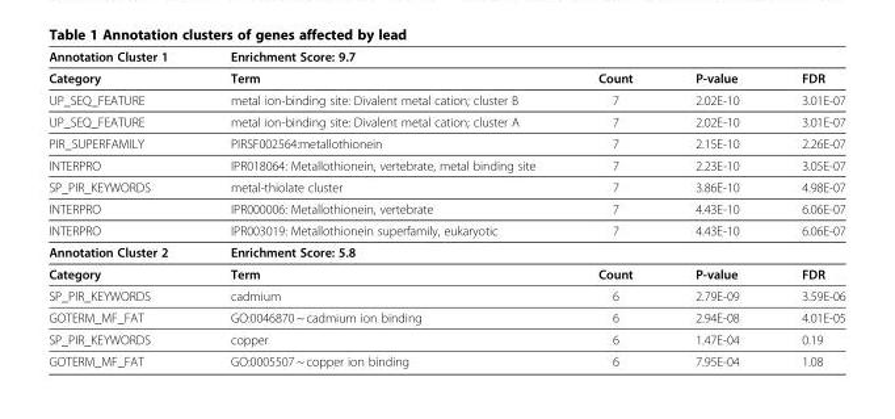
<table><thead><tr><td>Annotation Cluster 1</td><td>Enrichment Score: 9.7</td><td></td><td></td><td></td></tr></thead><tbody><tr><td>Category</td><td>Term</td><td>Count</td><td>P-value</td><td>FDR</td></tr><tr><td>UP_SEQ_FEATURE</td><td>metal ion-binding site: Divalent metal cation; cluster B</td><td>7</td><td>2.02E-10</td><td>3.01E-07</td></tr><tr><td>UP_SEQ_FEATURE</td><td>metal ion-binding site: Divalent metal cation; cluster A</td><td>7</td><td>2.02E-10</td><td>3.01E-07</td></tr><tr><td>PIR_SUPERFAMILY</td><td>PIRSF002564:metallothionein</td><td>7</td><td>2.15E-10</td><td>2.26E-07</td></tr><tr><td>INTERPRO</td><td>IPR018064: Metallothionein, vertebrate, metal binding site</td><td>7</td><td>2.23E-10</td><td>3.05E-07</td></tr><tr><td>SP_PIR_KEYWORDS</td><td>metal-thiolate cluster</td><td>7</td><td>3.86E-10</td><td>4.98E-07</td></tr><tr><td>INTERPRO</td><td>IPR000006: Metallothionein, vertebrate</td><td>7</td><td>4.43E-10</td><td>6.06E-07</td></tr><tr><td>INTERPRO</td><td>IPR003019: Metallothionein superfamily, eukaryotic</td><td>7</td><td>4.43E-10</td><td>6.06E-07</td></tr><tr><td>Annotation Cluster 2</td><td>Enrichment Score: 5.8</td><td></td><td></td><td></td></tr><tr><td>Category</td><td>Term</td><td>Count</td><td>P-value</td><td>FDR</td></tr><tr><td>SP_PIR_KEYWORDS</td><td>cadmium</td><td>6</td><td>2.79E-09</td><td>3.59E-06</td></tr><tr><td>GOTERM_MF_FAT</td><td>GO:0046870 ~ cadmium ion binding</td><td>6</td><td>2.94E-08</td><td>4.01E-05</td></tr><tr><td>SP_PIR_KEYWORDS</td><td>copper</td><td>6</td><td>1.47E-04</td><td>0.19</td></tr><tr><td>GOTERM_MF_FAT</td><td>GO:0005507 ~ copper ion binding</td><td>6</td><td>7.95E-04</td><td>1.08</td></tr></tbody></table>